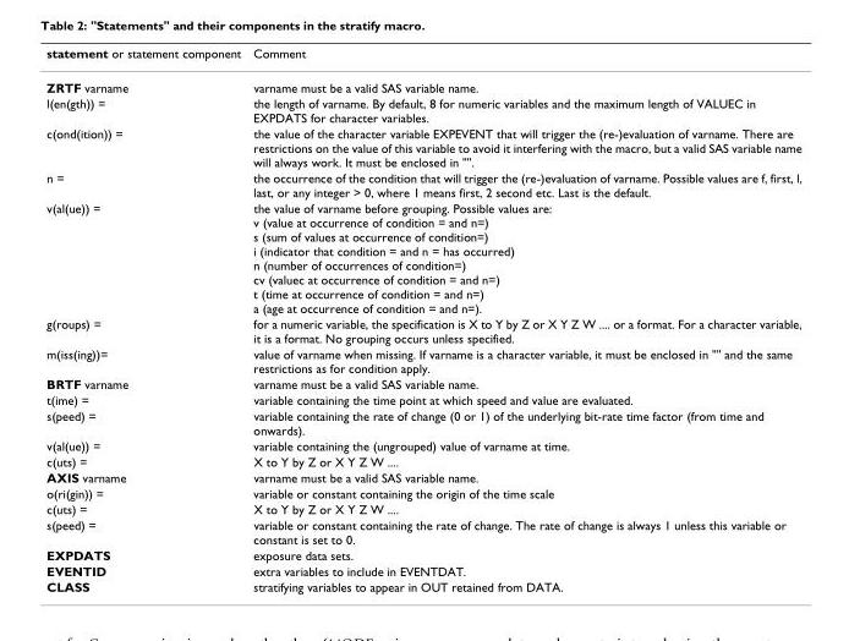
<table><thead><tr><td>statement or statement component</td><td>Comment</td></tr></thead><tbody><tr><td>ZRTF varname</td><td>varname must be a valid SAS variable name.</td></tr><tr><td>l(en(gth)) =</td><td>the length of varname. By default, 8 for numeric variables and the maximum length of VALUEC in EXPDATS for character variables.</td></tr><tr><td>c(ond(ition)) =</td><td>the value of the character variable EXPEVENT that will trigger the (re-)evaluation of varname. There are restrictions on the value of this variable to avoid it interfering with the macro, but a valid SAS variable name will always work. It must be enclosed in &quot;&quot;.</td></tr><tr><td>n =</td><td>the occurrence of the condition that will trigger the (re-)evaluation of varname. Possible values are f, first, l, last, or any integer &gt; 0, where 1 means first, 2 second etc. Last is the default.</td></tr><tr><td>v(al(ue)) =</td><td>the value of varname before grouping. Possible values are: v (value at occurrence of condition = and n=) s (sum of values at occurrence of condition=) i (indicator that condition = and n = has occurred) n (number of occurrences of condition=) cv (valuec at occurrence of condition = and n=) t (time at occurrence of condition = and n=) a (age at occurrence of condition = and n=).</td></tr><tr><td>g(roups) =</td><td>for a numeric variable, the specification is X to Y by Z or X Y Z W .... or a format. For a character variable, it is a format. No grouping occurs unless specified.</td></tr><tr><td>m(iss(ing))=</td><td>value of varname when missing. If varname is a character variable, it must be enclosed in &quot;&quot; and the same restrictions as for condition apply.</td></tr><tr><td>BRTF varname</td><td>varname must be a valid SAS variable name.</td></tr><tr><td>t(ime) =</td><td>variable containing the time point at which speed and value are evaluated.</td></tr><tr><td>s(peed) =</td><td>variable containing the rate of change (0 or 1) of the underlying bit-rate time factor (from time and onwards).</td></tr><tr><td>v(al(ue)) =</td><td>variable containing the (ungrouped) value of varname at time.</td></tr><tr><td>c(uts) =</td><td>X to Y by Z or X Y Z W ....</td></tr><tr><td>AXIS varname</td><td>varname must be a valid SAS variable name.</td></tr><tr><td>o(ri(gin)) =</td><td>variable or constant containing the origin of the time scale</td></tr><tr><td>c(uts) =</td><td>X to Y by Z or X Y Z W ....</td></tr><tr><td>s(peed) =</td><td>variable or constant containing the rate of change. The rate of change is always 1 unless this variable or constant is set to 0.</td></tr><tr><td>EXPDATS</td><td>exposure data sets.</td></tr><tr><td>EVENTID</td><td>extra variables to include in EVENTDAT.</td></tr><tr><td>CLASS</td><td>stratifying variables to appear in OUT retained from DATA.</td></tr></tbody></table>